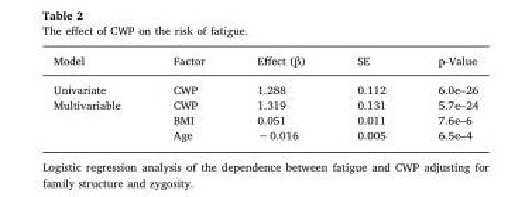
<table><thead><tr><td>Model</td><td>Factor</td><td>Effect (β)</td><td>SE</td><td>p-Value</td></tr></thead><tbody><tr><td>Univariate</td><td>CWP</td><td>1.288</td><td>0.112</td><td>6.0e–26</td></tr><tr><td rowspan="3">Multivariable</td><td>CWP</td><td>1.319</td><td>0.131</td><td>5.7e–24</td></tr><tr><td>BMI</td><td>0.051</td><td>0.011</td><td>7.6e–6</td></tr><tr><td>Age</td><td>−0.016</td><td>0.005</td><td>6.5e–4</td></tr></tbody></table>